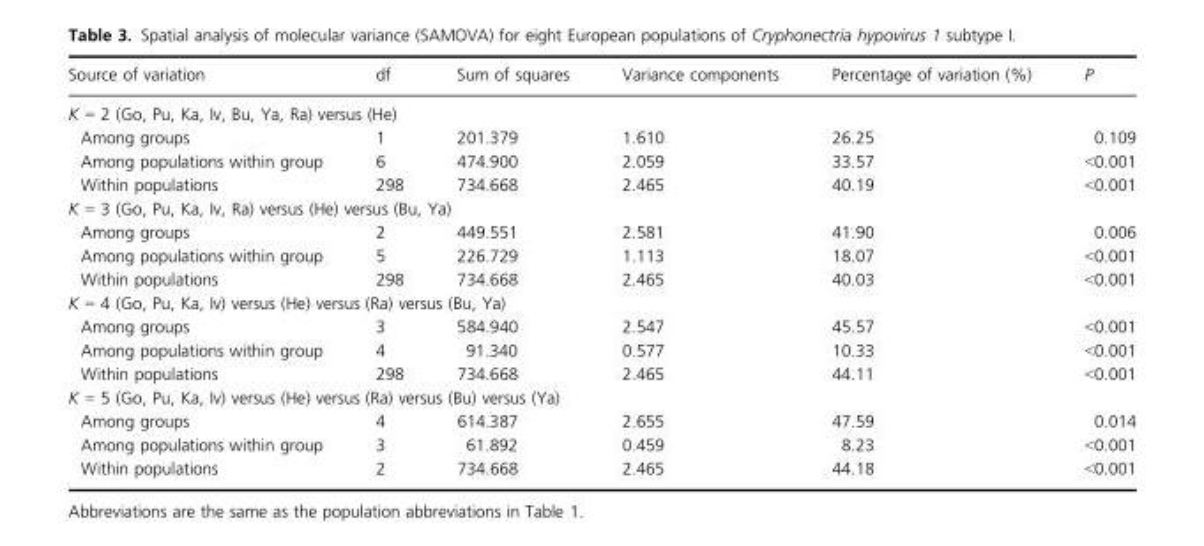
<table><thead><tr><td>Source of variation</td><td>df</td><td>Sum of squares</td><td>Variance components</td><td>Percentage of variation (%)</td><td>P</td></tr></thead><tbody><tr><td colspan="6">K = 2 (Go, Pu, Ka, Iv, Bu, Ya, Ra) versus (He)</td></tr><tr><td>Among groups</td><td>1</td><td>201.379</td><td>1.610</td><td>26.25</td><td>0.109</td></tr><tr><td>Among populations within group</td><td>6</td><td>474.900</td><td>2.059</td><td>33.57</td><td>&lt;0.001</td></tr><tr><td>Within populations</td><td>298</td><td>734.668</td><td>2.465</td><td>40.19</td><td>&lt;0.001</td></tr><tr><td colspan="6">K = 3 (Go, Pu, Ka, Iv, Ra) versus (He) versus (Bu, Ya)</td></tr><tr><td>Among groups</td><td>2</td><td>449.551</td><td>2.581</td><td>41.90</td><td>0.006</td></tr><tr><td>Among populations within group</td><td>5</td><td>226.729</td><td>1.113</td><td>18.07</td><td>&lt;0.001</td></tr><tr><td>Within populations</td><td>298</td><td>734.668</td><td>2.465</td><td>40.03</td><td>&lt;0.001</td></tr><tr><td colspan="6">K = 4 (Go, Pu, Ka, Iv) versus (He) versus (Ra) versus (Bu, Ya)</td></tr><tr><td>Among groups</td><td>3</td><td>584.940</td><td>2.547</td><td>45.57</td><td>&lt;0.001</td></tr><tr><td>Among populations within group</td><td>4</td><td>91.340</td><td>0.577</td><td>10.33</td><td>&lt;0.001</td></tr><tr><td>Within populations</td><td>298</td><td>734.668</td><td>2.465</td><td>44.11</td><td>&lt;0.001</td></tr><tr><td colspan="6">K = 5 (Go, Pu, Ka, Iv) versus (He) versus (Ra) versus (Bu) versus (Ya)</td></tr><tr><td>Among groups</td><td>4</td><td>614.387</td><td>2.655</td><td>47.59</td><td>0.014</td></tr><tr><td>Among populations within group</td><td>3</td><td>61.892</td><td>0.459</td><td>8.23</td><td>&lt;0.001</td></tr><tr><td>Within populations</td><td>2</td><td>734.668</td><td>2.465</td><td>44.18</td><td>&lt;0.001</td></tr></tbody></table>